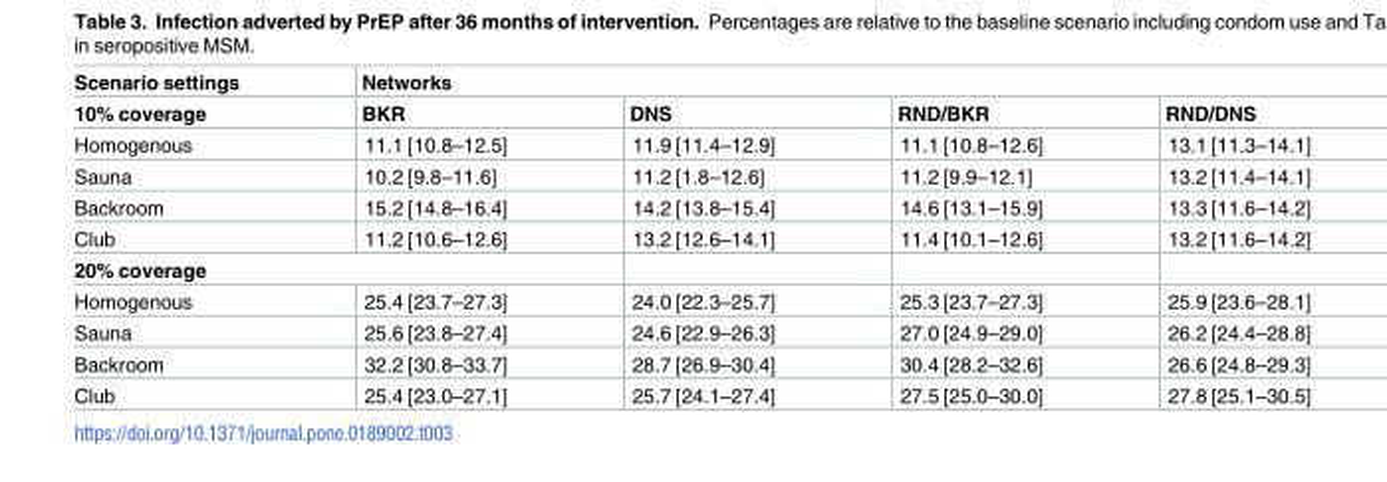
<table><thead><tr><td rowspan="2">Scenario settings 10% coverage</td><td colspan="4">Networks</td></tr><tr><td>BKR</td><td>DNS</td><td>RND/BKR</td><td>RND/DNS</td></tr></thead><tbody><tr><td>Homogenous</td><td>11.1 [10.8–12.5]</td><td>11.9 [11.4–12.9]</td><td>11.1 [10.8–12.6]</td><td>13.1 [11.3–14.1]</td></tr><tr><td>Sauna</td><td>10.2 [9.8–11.6]</td><td>11.2 [1.8–12.6]</td><td>11.2 [9.9–12.1]</td><td>13.2 [11.4–14.1]</td></tr><tr><td>Backroom</td><td>15.2 [14.8–16.4]</td><td>14.2 [13.8–15.4]</td><td>14.6 [13.1–15.9]</td><td>13.3 [11.6–14.2]</td></tr><tr><td>Club</td><td>11.2 [10.6–12.6]</td><td>13.2 [12.6–14.1]</td><td>11.4 [10.1–12.6]</td><td>13.2 [11.6–14.2]</td></tr><tr><td colspan="5">20% coverage</td></tr><tr><td>Homogenous</td><td>25.4 [23.7–27.3]</td><td>24.0 [22.3–25.7]</td><td>25.3 [23.7–27.3]</td><td>25.9 [23.6–28.1]</td></tr><tr><td>Sauna</td><td>25.6 [23.8–27.4]</td><td>24.6 [22.9–26.3]</td><td>27.0 [24.9–29.0]</td><td>26.2 [24.4–28.8]</td></tr><tr><td>Backroom</td><td>32.2 [30.8–33.7]</td><td>28.7 [26.9–30.4]</td><td>30.4 [28.2–32.6]</td><td>26.6 [24.8–29.3]</td></tr><tr><td>Club</td><td>25.4 [23.0–27.1]</td><td>25.7 [24.1–27.4]</td><td>27.5 [25.0–30.0]</td><td>27.8 [25.1–30.5]</td></tr></tbody></table>